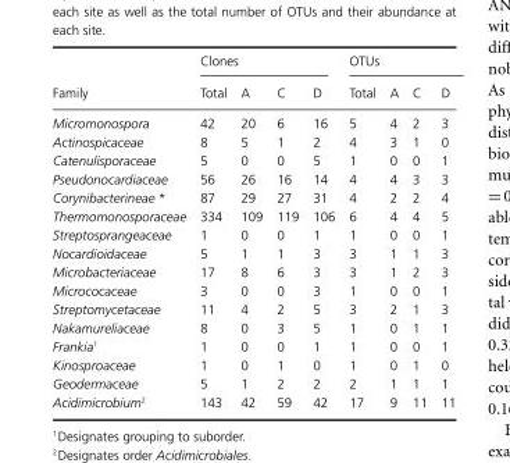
<table><thead><tr><td rowspan="2">Family</td><td colspan="4">Clones</td><td colspan="4">OTUs</td></tr><tr><td>Total</td><td>A</td><td>C</td><td>D</td><td>Total</td><td>A</td><td>C</td><td>D</td></tr></thead><tbody><tr><td>Micromonospora</td><td>42</td><td>20</td><td>6</td><td>16</td><td>5</td><td>4</td><td>2</td><td>3</td></tr><tr><td>Actinospicaceae</td><td>8</td><td>5</td><td>1</td><td>2</td><td>4</td><td>3</td><td>1</td><td>0</td></tr><tr><td>Catenulisporaceae</td><td>5</td><td>0</td><td>0</td><td>5</td><td>1</td><td>0</td><td>0</td><td>1</td></tr><tr><td>Pseudonocardiaceae</td><td>56</td><td>26</td><td>16</td><td>14</td><td>4</td><td>4</td><td>3</td><td>3</td></tr><tr><td>Corynibacterineae *</td><td>87</td><td>29</td><td>27</td><td>31</td><td>4</td><td>2</td><td>2</td><td>4</td></tr><tr><td>Thermomonosporaceae</td><td>334</td><td>109</td><td>119</td><td>106</td><td>6</td><td>4</td><td>4</td><td>5</td></tr><tr><td>Streptosprangeaceae</td><td>1</td><td>0</td><td>0</td><td>1</td><td>1</td><td>0</td><td>0</td><td>1</td></tr><tr><td>Nocardioidaceae</td><td>5</td><td>1</td><td>1</td><td>3</td><td>3</td><td>1</td><td>1</td><td>3</td></tr><tr><td>Microbacteriaceae</td><td>17</td><td>8</td><td>6</td><td>3</td><td>3</td><td>1</td><td>2</td><td>3</td></tr><tr><td>Micrococaceae</td><td>3</td><td>0</td><td>0</td><td>3</td><td>1</td><td>0</td><td>0</td><td>1</td></tr><tr><td>Streptomycetaceae</td><td>11</td><td>4</td><td>2</td><td>5</td><td>3</td><td>2</td><td>1</td><td>3</td></tr><tr><td>Nakamureliaceae</td><td>8</td><td>0</td><td>3</td><td>5</td><td>1</td><td>0</td><td>1</td><td>1</td></tr><tr><td>Frankia<sup>1</sup></td><td>1</td><td>0</td><td>0</td><td>1</td><td>1</td><td>0</td><td>0</td><td>1</td></tr><tr><td>Kinosproaceae</td><td>1</td><td>0</td><td>1</td><td>0</td><td>1</td><td>0</td><td>1</td><td>0</td></tr><tr><td>Geodermaceae</td><td>5</td><td>1</td><td>2</td><td>2</td><td>2</td><td>1</td><td>1</td><td>1</td></tr><tr><td>Acidimicrobium<sup>2</sup></td><td>143</td><td>42</td><td>59</td><td>42</td><td>17</td><td>9</td><td>11</td><td>11</td></tr></tbody></table>